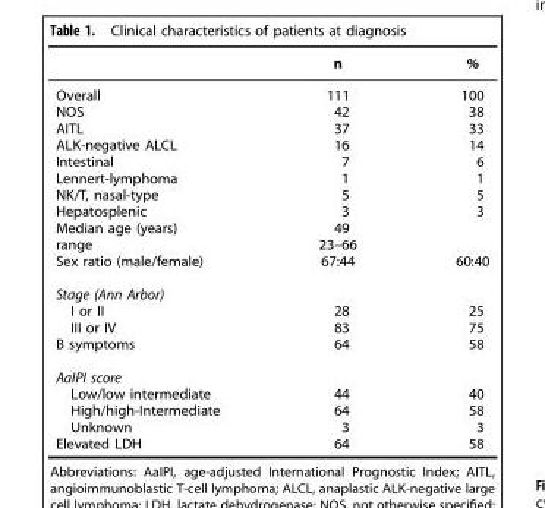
<table><thead><tr><td></td><td>n</td><td>%</td></tr></thead><tbody><tr><td>Overall</td><td>111</td><td>100</td></tr><tr><td>NOS</td><td>42</td><td>38</td></tr><tr><td>AITL</td><td>37</td><td>33</td></tr><tr><td>ALK-negative ALCL</td><td>16</td><td>14</td></tr><tr><td>Intestinal</td><td>7</td><td>6</td></tr><tr><td>Lennert-lymphoma</td><td>1</td><td>1</td></tr><tr><td>NK/T, nasal-type</td><td>5</td><td>5</td></tr><tr><td>Hepatosplenic</td><td>3</td><td>3</td></tr><tr><td>Median age (years)</td><td>49</td><td></td></tr><tr><td>range</td><td>23–66</td><td></td></tr><tr><td>Sex ratio (male/female)</td><td>67:44</td><td>60:40</td></tr><tr><td colspan="3">Stage (Ann Arbor)</td></tr><tr><td>I or II</td><td>28</td><td>25</td></tr><tr><td>III or IV</td><td>83</td><td>75</td></tr><tr><td>B symptoms</td><td>64</td><td>58</td></tr><tr><td colspan="3">AaIPI score</td></tr><tr><td>Low/low intermediate</td><td>44</td><td>40</td></tr><tr><td>High/high-Intermediate</td><td>64</td><td>58</td></tr><tr><td>Unknown</td><td>3</td><td>3</td></tr><tr><td>Elevated LDH</td><td>64</td><td>58</td></tr></tbody></table>